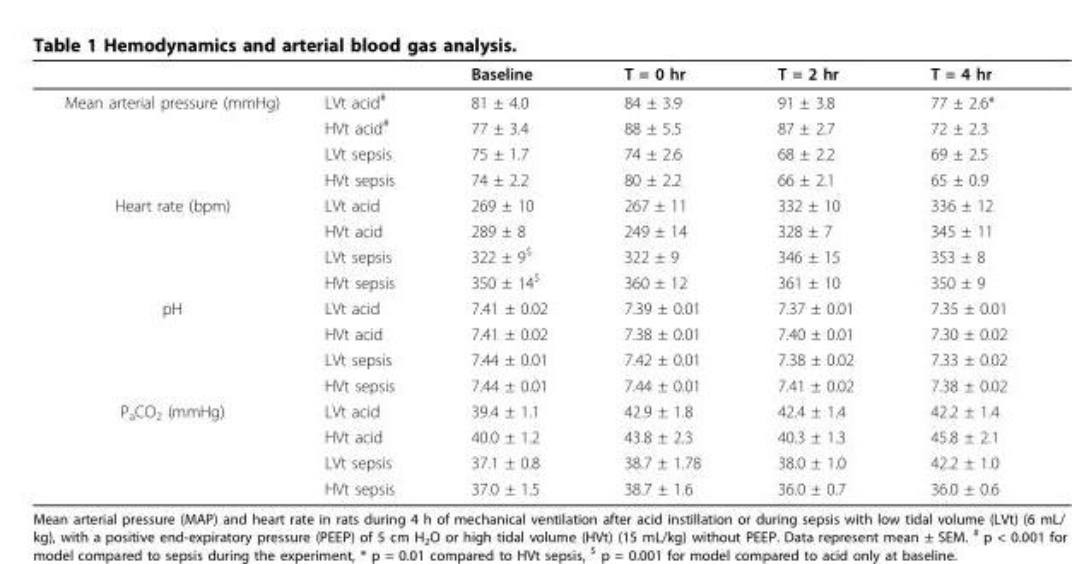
<table><thead><tr><td></td><td></td><td>Baseline</td><td>T = 0 hr</td><td>T = 2 hr</td><td>T = 4 hr</td></tr></thead><tbody><tr><td rowspan="4">Mean arterial pressure (mmHg)</td><td>LVt acid<sup>#</sup></td><td>81 ± 4.0</td><td>84 ± 3.9</td><td>91 ± 3.8</td><td>77 ± 2.6*</td></tr><tr><td>HVt acid<sup>#</sup></td><td>77 ± 3.4</td><td>88 ± 5.5</td><td>87 ± 2.7</td><td>72 ± 2.3</td></tr><tr><td>LVt sepsis</td><td>75 ± 1.7</td><td>74 ± 2.6</td><td>68 ± 2.2</td><td>69 ± 2.5</td></tr><tr><td>HVt sepsis</td><td>74 ± 2.2</td><td>80 ± 2.2</td><td>66 ± 2.1</td><td>65 ± 0.9</td></tr><tr><td rowspan="4">Heart rate (bpm)</td><td>LVt acid</td><td>269 ± 10</td><td>267 ± 11</td><td>332 ± 10</td><td>336 ± 12</td></tr><tr><td>HVt acid</td><td>289 ± 8</td><td>249 ± 14</td><td>328 ± 7</td><td>345 ± 11</td></tr><tr><td>LVt sepsis</td><td>322 ± 9<sup>$</sup></td><td>322 ± 9</td><td>346 ± 15</td><td>353 ± 8</td></tr><tr><td>HVt sepsis</td><td>350 ± 14<sup>$</sup></td><td>360 ± 12</td><td>361 ± 10</td><td>350 ± 9</td></tr><tr><td rowspan="4">pH</td><td>LVt acid</td><td>7.41 ± 0.02</td><td>7.39 ± 0.01</td><td>7.37 ± 0.01</td><td>7.35 ± 0.01</td></tr><tr><td>HVt acid</td><td>7.41 ± 0.02</td><td>7.38 ± 0.01</td><td>7.40 ± 0.01</td><td>7.30 ± 0.02</td></tr><tr><td>LVt sepsis</td><td>7.44 ± 0.01</td><td>7.42 ± 0.01</td><td>7.38 ± 0.02</td><td>7.33 ± 0.02</td></tr><tr><td>HVt sepsis</td><td>7.44 ± 0.01</td><td>7.44 ± 0.01</td><td>7.41 ± 0.02</td><td>7.38 ± 0.02</td></tr><tr><td rowspan="4">P<sub>a</sub>CO<sub>2</sub> (mmHg)</td><td>LVt acid</td><td>39.4 ± 1.1</td><td>42.9 ± 1.8</td><td>42.4 ± 1.4</td><td>42.2 ± 1.4</td></tr><tr><td>HVt acid</td><td>40.0 ± 1.2</td><td>43.8 ± 2.3</td><td>40.3 ± 1.3</td><td>45.8 ± 2.1</td></tr><tr><td>LVt sepsis</td><td>37.1 ± 0.8</td><td>38.7 ± 1.78</td><td>38.0 ± 1.0</td><td>42.2 ± 1.0</td></tr><tr><td>HVt sepsis</td><td>37.0 ± 1.5</td><td>38.7 ± 1.6</td><td>36.0 ± 0.7</td><td>36.0 ± 0.6</td></tr></tbody></table>